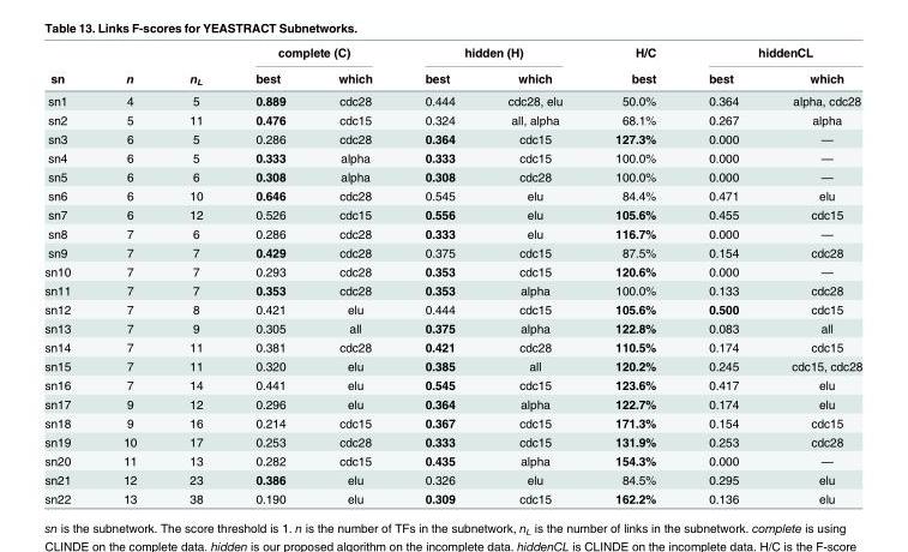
<table><thead><tr><td rowspan="2">sn</td><td rowspan="2">n</td><td rowspan="2">n<sub>L</sub></td><td colspan="2">complete (C)</td><td colspan="2">hidden (H)</td><td rowspan="2">H/C best</td><td colspan="2">hiddenCL</td></tr><tr><td>best</td><td>which</td><td>best</td><td>which</td><td>best</td><td>which</td></tr></thead><tbody><tr><td>sn1</td><td>4</td><td>5</td><td>0.889</td><td>cdc28</td><td>0.444</td><td>cdc28, elu</td><td>50.0%</td><td>0.364</td><td>alpha, cdc28</td></tr><tr><td>sn2</td><td>5</td><td>11</td><td>0.476</td><td>cdc15</td><td>0.324</td><td>all, alpha</td><td>68.1%</td><td>0.267</td><td>alpha</td></tr><tr><td>sn3</td><td>6</td><td>5</td><td>0.286</td><td>cdc28</td><td>0.364</td><td>cdc15</td><td>127.3%</td><td>0.000</td><td>—</td></tr><tr><td>sn4</td><td>6</td><td>5</td><td>0.333</td><td>alpha</td><td>0.333</td><td>cdc15</td><td>100.0%</td><td>0.000</td><td>—</td></tr><tr><td>sn5</td><td>6</td><td>6</td><td>0.308</td><td>alpha</td><td>0.308</td><td>cdc28</td><td>100.0%</td><td>0.000</td><td>—</td></tr><tr><td>sn6</td><td>6</td><td>10</td><td>0.646</td><td>cdc28</td><td>0.545</td><td>elu</td><td>84.4%</td><td>0.471</td><td>elu</td></tr><tr><td>sn7</td><td>6</td><td>12</td><td>0.526</td><td>cdc15</td><td>0.556</td><td>elu</td><td>105.6%</td><td>0.455</td><td>cdc15</td></tr><tr><td>sn8</td><td>7</td><td>6</td><td>0.286</td><td>cdc28</td><td>0.333</td><td>elu</td><td>116.7%</td><td>0.000</td><td>—</td></tr><tr><td>sn9</td><td>7</td><td>7</td><td>0.429</td><td>cdc28</td><td>0.375</td><td>cdc15</td><td>87.5%</td><td>0.154</td><td>cdc28</td></tr><tr><td>sn10</td><td>7</td><td>7</td><td>0.293</td><td>cdc28</td><td>0.353</td><td>cdc15</td><td>120.6%</td><td>0.000</td><td>—</td></tr><tr><td>sn11</td><td>7</td><td>7</td><td>0.353</td><td>cdc28</td><td>0.353</td><td>alpha</td><td>100.0%</td><td>0.133</td><td>cdc28</td></tr><tr><td>sn12</td><td>7</td><td>8</td><td>0.421</td><td>elu</td><td>0.444</td><td>cdc15</td><td>105.6%</td><td>0.500</td><td>cdc15</td></tr><tr><td>sn13</td><td>7</td><td>9</td><td>0.305</td><td>all</td><td>0.375</td><td>alpha</td><td>122.8%</td><td>0.083</td><td>all</td></tr><tr><td>sn14</td><td>7</td><td>11</td><td>0.381</td><td>cdc28</td><td>0.421</td><td>cdc28</td><td>110.5%</td><td>0.174</td><td>cdc15</td></tr><tr><td>sn15</td><td>7</td><td>11</td><td>0.320</td><td>elu</td><td>0.385</td><td>all</td><td>120.2%</td><td>0.245</td><td>cdc15, cdc28</td></tr><tr><td>sn16</td><td>7</td><td>14</td><td>0.441</td><td>elu</td><td>0.545</td><td>cdc15</td><td>123.6%</td><td>0.417</td><td>elu</td></tr><tr><td>sn17</td><td>9</td><td>12</td><td>0.296</td><td>elu</td><td>0.364</td><td>alpha</td><td>122.7%</td><td>0.174</td><td>elu</td></tr><tr><td>sn18</td><td>9</td><td>16</td><td>0.214</td><td>cdc15</td><td>0.367</td><td>cdc15</td><td>171.3%</td><td>0.154</td><td>cdc15</td></tr><tr><td>sn19</td><td>10</td><td>17</td><td>0.253</td><td>cdc28</td><td>0.333</td><td>cdc15</td><td>131.9%</td><td>0.253</td><td>cdc28</td></tr><tr><td>sn20</td><td>11</td><td>13</td><td>0.282</td><td>cdc15</td><td>0.435</td><td>alpha</td><td>154.3%</td><td>0.000</td><td>—</td></tr><tr><td>sn21</td><td>12</td><td>23</td><td>0.386</td><td>elu</td><td>0.326</td><td>elu</td><td>84.5%</td><td>0.295</td><td>elu</td></tr><tr><td>sn22</td><td>13</td><td>38</td><td>0.190</td><td>elu</td><td>0.309</td><td>cdc15</td><td>162.2%</td><td>0.136</td><td>elu</td></tr></tbody></table>